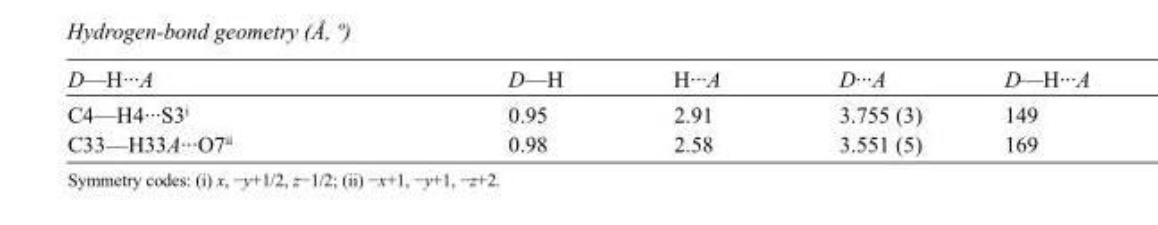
<table><tbody><tr><td>D—H···A</td><td>D—H</td><td>H···A</td><td>D···A</td><td>D—H···A</td></tr><tr><td>C4—H4···S3<sup>i</sup></td><td>0.95</td><td>2.91</td><td>3.755 (3)</td><td>149</td></tr><tr><td>C33—H33A···O7<sup>ii</sup></td><td>0.98</td><td>2.58</td><td>3.551 (5)</td><td>169</td></tr></tbody></table>